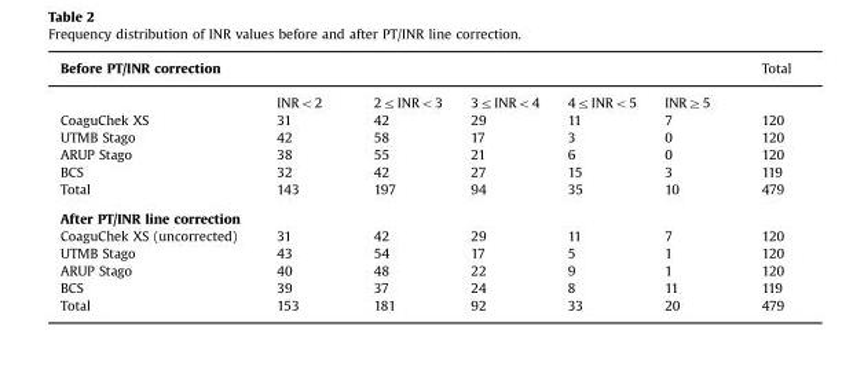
<table><thead><tr><td colspan="6">Before PT/INR correction</td><td rowspan="2">Total</td></tr><tr><td></td><td>INR&lt;2</td><td>2≤INR&lt;3</td><td>3≤INR&lt;4</td><td>4≤INR&lt;5</td><td>INR≥5</td></tr></thead><tbody><tr><td>CoaguChek XS</td><td>31</td><td>42</td><td>29</td><td>11</td><td>7</td><td>120</td></tr><tr><td>UTMB Stago</td><td>42</td><td>58</td><td>17</td><td>3</td><td>0</td><td>120</td></tr><tr><td>ARUP Stago</td><td>38</td><td>55</td><td>21</td><td>6</td><td>0</td><td>120</td></tr><tr><td>BCS</td><td>32</td><td>42</td><td>27</td><td>15</td><td>3</td><td>119</td></tr><tr><td>Total</td><td>143</td><td>197</td><td>94</td><td>35</td><td>10</td><td>479</td></tr><tr><td colspan="7">After PT/INR line correction</td></tr><tr><td>CoaguChek XS (uncorrected)</td><td>31</td><td>42</td><td>29</td><td>11</td><td>7</td><td>120</td></tr><tr><td>UTMB Stago</td><td>43</td><td>54</td><td>17</td><td>5</td><td>1</td><td>120</td></tr><tr><td>ARUP Stago</td><td>40</td><td>48</td><td>22</td><td>9</td><td>1</td><td>120</td></tr><tr><td>BCS</td><td>39</td><td>37</td><td>24</td><td>8</td><td>11</td><td>119</td></tr><tr><td>Total</td><td>153</td><td>181</td><td>92</td><td>33</td><td>20</td><td>479</td></tr></tbody></table>